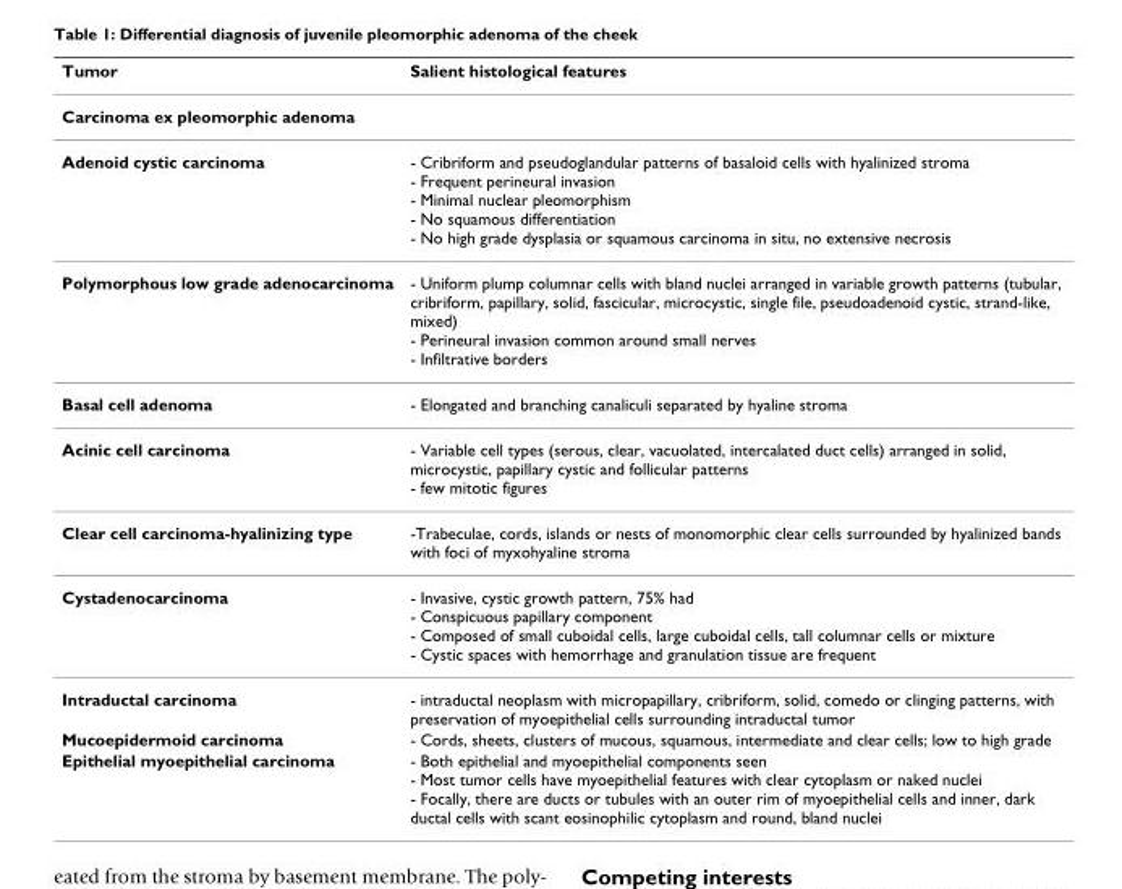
<table><thead><tr><td>Tumor</td><td>Salient histological features</td></tr></thead><tbody><tr><td colspan="2">Carcinoma ex pleomorphic adenoma</td></tr><tr><td>Adenoid cystic carcinoma</td><td>- Cribriform and pseudoglandular patterns of basaloid cells with hyalinized stroma - Frequent perineural invasion - Minimal nuclear pleomorphism - No squamous differentiation - No high grade dysplasia or squamous carcinoma in situ, no extensive necrosis</td></tr><tr><td>Polymorphous low grade adenocarcinoma</td><td>- Uniform plump columnar cells with bland nuclei arranged in variable growth patterns (tubular, cribriform, papillary, solid, fascicular, microcystic, single file, pseudoadenoid cystic, strand-like, mixed) - Perineural invasion common around small nerves - Infiltrative borders</td></tr><tr><td>Basal cell adenoma</td><td>- Elongated and branching canaliculi separated by hyaline stroma</td></tr><tr><td>Acinic cell carcinoma</td><td>- Variable cell types (serous, clear, vacuolated, intercalated duct cells) arranged in solid, microcystic, papillary cystic and follicular patterns - few mitotic figures</td></tr><tr><td>Clear cell carcinoma-hyalinizing type</td><td>-Trabeculae, cords, islands or nests of monomorphic clear cells surrounded by hyalinized bands with foci of myxohyaline stroma</td></tr><tr><td>Cystadenocarcinoma</td><td>- Invasive, cystic growth pattern, 75% had - Conspicuous papillary component - Composed of small cuboidal cells, large cuboidal cells, tall columnar cells or mixture - Cystic spaces with hemorrhage and granulation tissue are frequent</td></tr><tr><td>Intraductal carcinoma</td><td>- intraductal neoplasm with micropapillary, cribriform, solid, comedo or clinging patterns, with preservation of myoepithelial cells surrounding intraductal tumor</td></tr><tr><td>Mucoepidermoid carcinoma</td><td>- Cords, sheets, clusters of mucous, squamous, intermediate and clear cells; low to high grade</td></tr><tr><td>Epithelial myoepithelial carcinoma</td><td>- Both epithelial and myoepithelial components seen - Most tumor cells have myoepithelial features with clear cytoplasm or naked nuclei - Focally, there are ducts or tubules with an outer rim of myoepithelial cells and inner, dark ductal cells with scant eosinophilic cytoplasm and round, bland nuclei</td></tr></tbody></table>